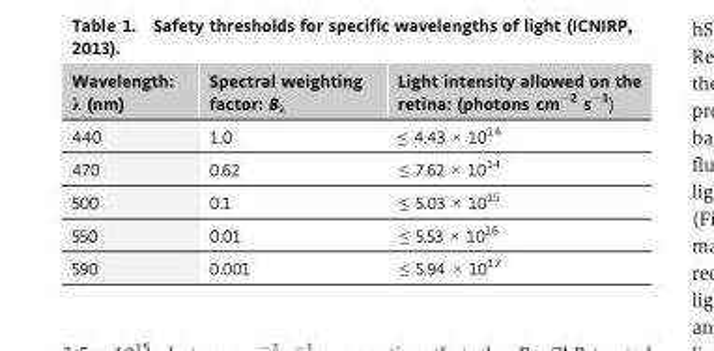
<table><thead><tr><td>Wavelength: λ (nm)</td><td>Spectral weighting factor: B<sub>λ</sub></td><td>Light intensity allowed on the retina: (photons cm<sup>−2</sup> s<sup>−1</sup>)</td></tr></thead><tbody><tr><td>440</td><td>1.0</td><td>≤ 4.43 × 10<sup>14</sup></td></tr><tr><td>470</td><td>0.62</td><td>≤ 7.62 × 10<sup>14</sup></td></tr><tr><td>500</td><td>0.1</td><td>≤ 5.03 × 10<sup>15</sup></td></tr><tr><td>550</td><td>0.01</td><td>≤ 5.53 × 10<sup>16</sup></td></tr><tr><td>590</td><td>0.001</td><td>≤ 5.94 × 10<sup>17</sup></td></tr></tbody></table>